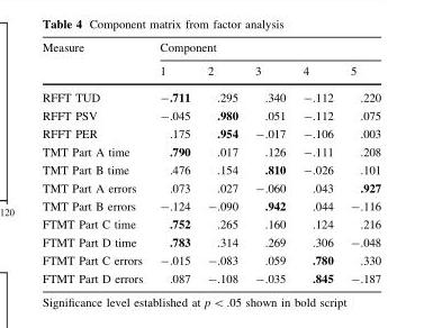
<table><thead><tr><td rowspan="2">Measure</td><td colspan="5">Component</td></tr><tr><td>1</td><td>2</td><td>3</td><td>4</td><td>5</td></tr></thead><tbody><tr><td>RFFT TUD</td><td>-.711</td><td>.295</td><td>.340</td><td>-.112</td><td>.220</td></tr><tr><td>RFFT PSV</td><td>-.045</td><td>.980</td><td>.051</td><td>-.112</td><td>.075</td></tr><tr><td>RFFT PER</td><td>.175</td><td>.954</td><td>-.017</td><td>-.106</td><td>.003</td></tr><tr><td>TMT Part A time</td><td>.790</td><td>.017</td><td>.126</td><td>-.111</td><td>.208</td></tr><tr><td>TMT Part B time</td><td>.476</td><td>.154</td><td>.810</td><td>-.026</td><td>.101</td></tr><tr><td>TMT Part A errors</td><td>.073</td><td>.027</td><td>-.060</td><td>.043</td><td>.927</td></tr><tr><td>TMT Part B errors</td><td>-.124</td><td>-.090</td><td>.942</td><td>.044</td><td>-.116</td></tr><tr><td>FTMT Part C time</td><td>.752</td><td>.265</td><td>.160</td><td>.124</td><td>.216</td></tr><tr><td>FTMT Part D time</td><td>.783</td><td>.314</td><td>.269</td><td>.306</td><td>-.048</td></tr><tr><td>FTMT Part C errors</td><td>-.015</td><td>-.083</td><td>.059</td><td>.780</td><td>.330</td></tr><tr><td>FTMT Part D errors</td><td>.087</td><td>-.108</td><td>-.035</td><td>.845</td><td>-.187</td></tr></tbody></table>